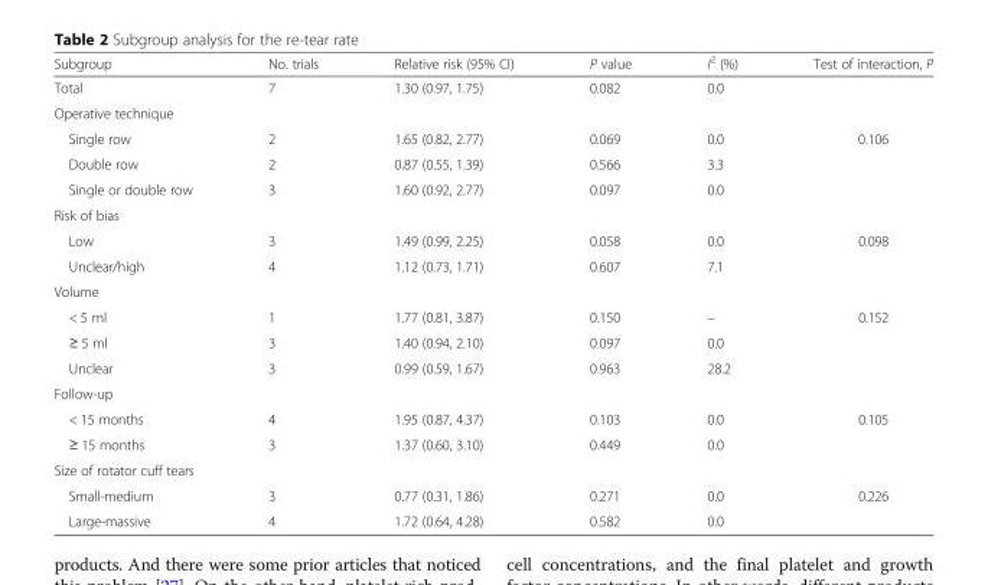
<table><thead><tr><td>Subgroup</td><td>No. trials</td><td>Relative risk (95% CI)</td><td>P value</td><td>I<sup>2</sup> (%)</td><td>Test of interaction, P</td></tr></thead><tbody><tr><td>Total</td><td>7</td><td>1.30 (0.97, 1.75)</td><td>0.082</td><td>0.0</td><td></td></tr><tr><td colspan="6">Operative technique</td></tr><tr><td>Single row</td><td>2</td><td>1.65 (0.82, 2.77)</td><td>0.069</td><td>0.0</td><td rowspan="3">0.106</td></tr><tr><td>Double row</td><td>2</td><td>0.87 (0.55, 1.39)</td><td>0.566</td><td>3.3</td></tr><tr><td>Single or double row</td><td>3</td><td>1.60 (0.92, 2.77)</td><td>0.097</td><td>0.0</td></tr><tr><td colspan="6">Risk of bias</td></tr><tr><td>Low</td><td>3</td><td>1.49 (0.99, 2.25)</td><td>0.058</td><td>0.0</td><td rowspan="2">0.098</td></tr><tr><td>Unclear/high</td><td>4</td><td>1.12 (0.73, 1.71)</td><td>0.607</td><td>7.1</td></tr><tr><td colspan="6">Volume</td></tr><tr><td>&lt; 5 ml</td><td>1</td><td>1.77 (0.81, 3.87)</td><td>0.150</td><td>–</td><td rowspan="3">0.152</td></tr><tr><td>≥ 5 ml</td><td>3</td><td>1.40 (0.94, 2.10)</td><td>0.097</td><td>0.0</td></tr><tr><td>Unclear</td><td>3</td><td>0.99 (0.59, 1.67)</td><td>0.963</td><td>28.2</td></tr><tr><td colspan="6">Follow-up</td></tr><tr><td>&lt; 15 months</td><td>4</td><td>1.95 (0.87, 4.37)</td><td>0.103</td><td>0.0</td><td rowspan="2">0.105</td></tr><tr><td>≥ 15 months</td><td>3</td><td>1.37 (0.60, 3.10)</td><td>0.449</td><td>0.0</td></tr><tr><td colspan="6">Size of rotator cuff tears</td></tr><tr><td>Small-medium</td><td>3</td><td>0.77 (0.31, 1.86)</td><td>0.271</td><td>0.0</td><td rowspan="2">0.226</td></tr><tr><td>Large-massive</td><td>4</td><td>1.72 (0.64, 4.28)</td><td>0.582</td><td>0.0</td></tr></tbody></table>